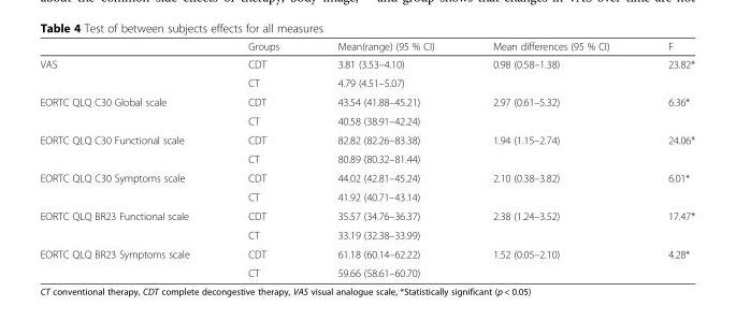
<table><thead><tr><td></td><td>Groups</td><td>Mean(range) (95 % CI)</td><td>Mean differences (95 % CI)</td><td>F</td></tr></thead><tbody><tr><td rowspan="2">VAS</td><td>CDT</td><td>3.81 (3.53–4.10)</td><td rowspan="2">0.98 (0.58–1.38)</td><td rowspan="2">23.82*</td></tr><tr><td>CT</td><td>4.79 (4.51–5.07)</td></tr><tr><td rowspan="2">EORTC QLQ C30 Global scale</td><td>CDT</td><td>43.54 (41.88–45.21)</td><td rowspan="2">2.97 (0.61–5.32)</td><td rowspan="2">6.36*</td></tr><tr><td>CT</td><td>40.58 (38.91–42.24)</td></tr><tr><td rowspan="2">EORTC QLQ C30 Functional scale</td><td>CDT</td><td>82.82 (82.26–83.38)</td><td rowspan="2">1.94 (1.15–2.74)</td><td rowspan="2">24.06*</td></tr><tr><td>CT</td><td>80.89 (80.32–81.44)</td></tr><tr><td rowspan="2">EORTC QLQ C30 Symptoms scale</td><td>CDT</td><td>44.02 (42.81–45.24)</td><td rowspan="2">2.10 (0.38–3.82)</td><td rowspan="2">6.01*</td></tr><tr><td>CT</td><td>41.92 (40.71–43.14)</td></tr><tr><td rowspan="2">EORTC QLQ BR23 Functional scale</td><td>CDT</td><td>35.57 (34.76–36.37)</td><td rowspan="2">2.38 (1.24–3.52)</td><td rowspan="2">17.47*</td></tr><tr><td>CT</td><td>33.19 (32.38–33.99)</td></tr><tr><td rowspan="2">EORTC QLQ BR23 Symptoms scale</td><td>CDT</td><td>61.18 (60.14–62.22)</td><td rowspan="2">1.52 (0.05–2.10)</td><td rowspan="2">4.28*</td></tr><tr><td>CT</td><td>59.66 (58.61–60.70)</td></tr></tbody></table>